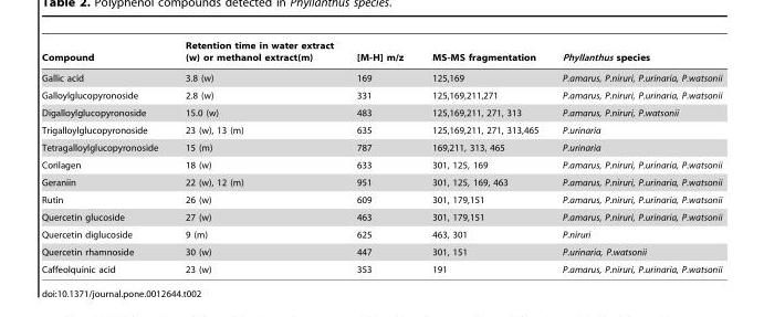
<table><thead><tr><td>Compound</td><td>Retention time in water extract (w) or methanol extract(m)</td><td>[M-H] m/z</td><td>MS-MS fragmentation</td><td>Phyllanthus species</td></tr></thead><tbody><tr><td>Gallic acid</td><td>3.8 (w)</td><td>169</td><td>125,169</td><td>P.amarus, P.niruri, P.urinaria, P.watsonii</td></tr><tr><td>Galloylglucopyronoside</td><td>2.8 (w)</td><td>331</td><td>125,169,211,271</td><td>P.amarus, P.niruri, P.urinaria, P.watsonii</td></tr><tr><td>Digalloylglucopyronoside</td><td>15.0 (w)</td><td>483</td><td>125,169,211, 271, 313</td><td>P.amarus, P.niruri, P.watsonii</td></tr><tr><td>Trigalloylglucopyronoside</td><td>23 (w), 13 (m)</td><td>635</td><td>125,169,211, 271, 313,465</td><td>P.urinaria</td></tr><tr><td>Tetragalloylglucopyronoside</td><td>15 (m)</td><td>787</td><td>169,211, 313, 465</td><td>P.urinaria</td></tr><tr><td>Corilagen</td><td>18 (w)</td><td>633</td><td>301, 125, 169</td><td>P.amarus, P.niruri, P.urinaria, P.watsonii</td></tr><tr><td>Geraniin</td><td>22 (w), 12 (m)</td><td>951</td><td>301, 125, 169, 463</td><td>P.amarus, P.niruri, P.urinaria, P.watsonii</td></tr><tr><td>Rutin</td><td>26 (w)</td><td>609</td><td>301, 179,151</td><td>P.amarus, P.niruri, P.urinaria, P.watsonii</td></tr><tr><td>Quercetin glucoside</td><td>27 (w)</td><td>463</td><td>301, 179,151</td><td>P.amarus, P.niruri, P.urinaria, P.watsonii</td></tr><tr><td>Quercetin diglucoside</td><td>9 (m)</td><td>625</td><td>463, 301</td><td>P.niruri</td></tr><tr><td>Quercetin rhamnoside</td><td>30 (w)</td><td>447</td><td>301, 151</td><td>P.urinaria, P.watsonii</td></tr><tr><td>Caffeolquinic acid</td><td>23 (w)</td><td>353</td><td>191</td><td>P.amarus, P.niruri, P.urinaria, P.watsonii</td></tr></tbody></table>